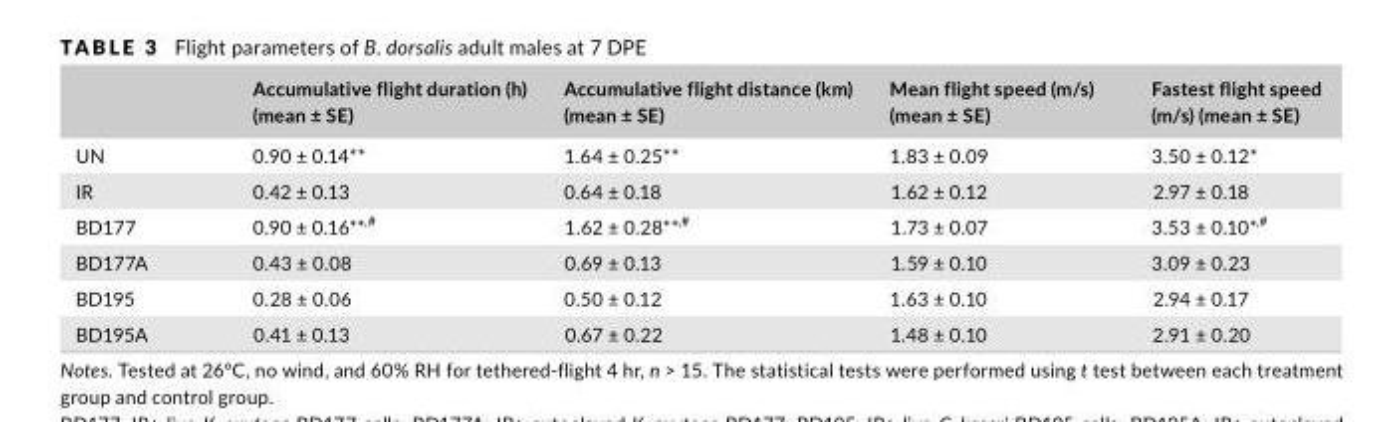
<table><thead><tr><td></td><td>Accumulative flight duration (h) (mean ± SE)</td><td>Accumulative flight distance (km) (mean ± SE)</td><td>Mean flight speed (m/s) (mean ± SE)</td><td>Fastest flight speed (m/s) (mean ± SE)</td></tr></thead><tbody><tr><td>UN</td><td>0.90 ± 0.14**</td><td>1.64 ± 0.25**</td><td>1.83 ± 0.09</td><td>3.50 ± 0.12*</td></tr><tr><td>IR</td><td>0.42 ± 0.13</td><td>0.64 ± 0.18</td><td>1.62 ± 0.12</td><td>2.97 ± 0.18</td></tr><tr><td>BD177</td><td>0.90 ± 0.16**<sup>,#</sup></td><td>1.62 ± 0.28**<sup>,#</sup></td><td>1.73 ± 0.07</td><td>3.53 ± 0.10*<sup>,#</sup></td></tr><tr><td>BD177A</td><td>0.43 ± 0.08</td><td>0.69 ± 0.13</td><td>1.59 ± 0.10</td><td>3.09 ± 0.23</td></tr><tr><td>BD195</td><td>0.28 ± 0.06</td><td>0.50 ± 0.12</td><td>1.63 ± 0.10</td><td>2.94 ± 0.17</td></tr><tr><td>BD195A</td><td>0.41 ± 0.13</td><td>0.67 ± 0.22</td><td>1.48 ± 0.10</td><td>2.91 ± 0.20</td></tr></tbody></table>